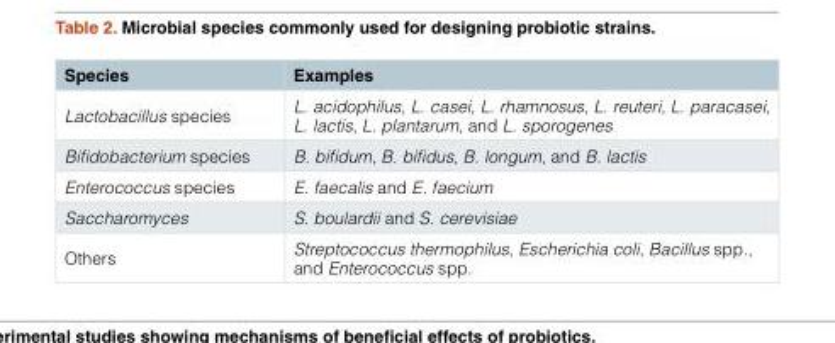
<table><thead><tr><td>Species</td><td>Examples</td></tr></thead><tbody><tr><td>Lactobacillus species</td><td>L. acidophilus, L. casei, L. rhamnosus, L. reuteri, L. paracasei, L. lactis, L. plantarum, and L. sporogenes</td></tr><tr><td>Bifidobacterium species</td><td>B. bifidum, B. bifidus, B. longum, and B. lactis</td></tr><tr><td>Enterococcus species</td><td>E. faecalis and E. faecium</td></tr><tr><td>Saccharomyces</td><td>S. boulardii and S. cerevisiae</td></tr><tr><td>Others</td><td>Streptococcus thermophilus, Escherichia coli, Bacillus spp., and Enterococcus spp.</td></tr></tbody></table>